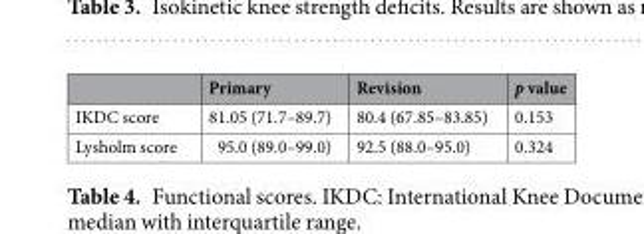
<table><thead><tr><td></td><td>Primary</td><td>Revision</td><td>p value</td></tr></thead><tbody><tr><td>IKDC score</td><td>81.05 (71.7–89.7)</td><td>80.4 (67.85–83.85)</td><td>0.153</td></tr><tr><td>Lysholm score</td><td>95.0 (89.0–99.0)</td><td>92.5 (88.0–95.0)</td><td>0.324</td></tr></tbody></table>